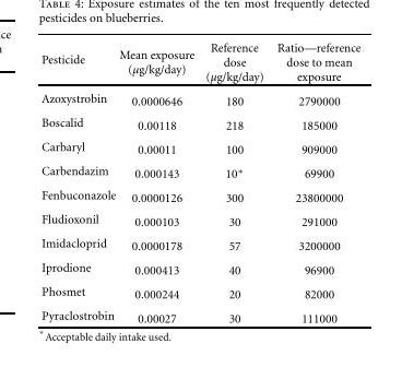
<table><thead><tr><td>Pesticide</td><td>Mean exposure (µg/kg/day)</td><td>Reference dose (µg/kg/day)</td><td>Ratio—reference dose to mean exposure</td></tr></thead><tbody><tr><td>Azoxystrobin</td><td>0.0000646</td><td>180</td><td>2790000</td></tr><tr><td>Boscalid</td><td>0.00118</td><td>218</td><td>185000</td></tr><tr><td>Carbaryl</td><td>0.00011</td><td>100</td><td>909000</td></tr><tr><td>Carbendazim</td><td>0.000143</td><td>10∗</td><td>69900</td></tr><tr><td>Fenbuconazole</td><td>0.0000126</td><td>300</td><td>23800000</td></tr><tr><td>Fludioxonil</td><td>0.000103</td><td>30</td><td>291000</td></tr><tr><td>Imidacloprid</td><td>0.0000178</td><td>57</td><td>3200000</td></tr><tr><td>Iprodione</td><td>0.000413</td><td>40</td><td>96900</td></tr><tr><td>Phosmet</td><td>0.000244</td><td>20</td><td>82000</td></tr><tr><td>Pyraclostrobin</td><td>0.00027</td><td>30</td><td>111000</td></tr></tbody></table>